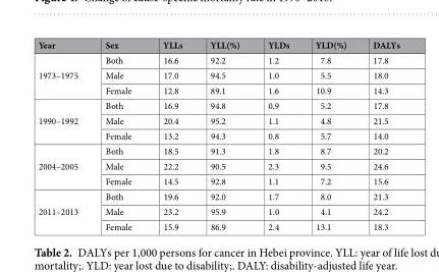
<table><thead><tr><td>Year</td><td>Sex</td><td>YLLs</td><td>YLL(%)</td><td>YLDs</td><td>YLD(%)</td><td>DALYs</td></tr></thead><tbody><tr><td rowspan="3">1973–1975</td><td>Both</td><td>16.6</td><td>92.2</td><td>1.2</td><td>7.8</td><td>17.8</td></tr><tr><td>Male</td><td>17.0</td><td>94.5</td><td>1.0</td><td>5.5</td><td>18.0</td></tr><tr><td>Female</td><td>12.8</td><td>89.1</td><td>1.6</td><td>10.9</td><td>14.3</td></tr><tr><td rowspan="3">1990–1992</td><td>Both</td><td>16.9</td><td>94.8</td><td>0.9</td><td>5.2</td><td>17.8</td></tr><tr><td>Male</td><td>20.4</td><td>95.2</td><td>1.1</td><td>4.8</td><td>21.5</td></tr><tr><td>Female</td><td>13.2</td><td>94.3</td><td>0.8</td><td>5.7</td><td>14.0</td></tr><tr><td rowspan="3">2004–2005</td><td>Both</td><td>18.5</td><td>91.3</td><td>1.8</td><td>8.7</td><td>20.2</td></tr><tr><td>Male</td><td>22.2</td><td>90.5</td><td>2.3</td><td>9.5</td><td>24.6</td></tr><tr><td>Female</td><td>14.5</td><td>92.8</td><td>1.1</td><td>7.2</td><td>15.6</td></tr><tr><td rowspan="3">2011–2013</td><td>Both</td><td>19.6</td><td>92.0</td><td>1.7</td><td>8.0</td><td>21.3</td></tr><tr><td>Male</td><td>23.2</td><td>95.9</td><td>1.0</td><td>4.1</td><td>24.2</td></tr><tr><td>Female</td><td>15.9</td><td>86.9</td><td>2.4</td><td>13.1</td><td>18.3</td></tr></tbody></table>